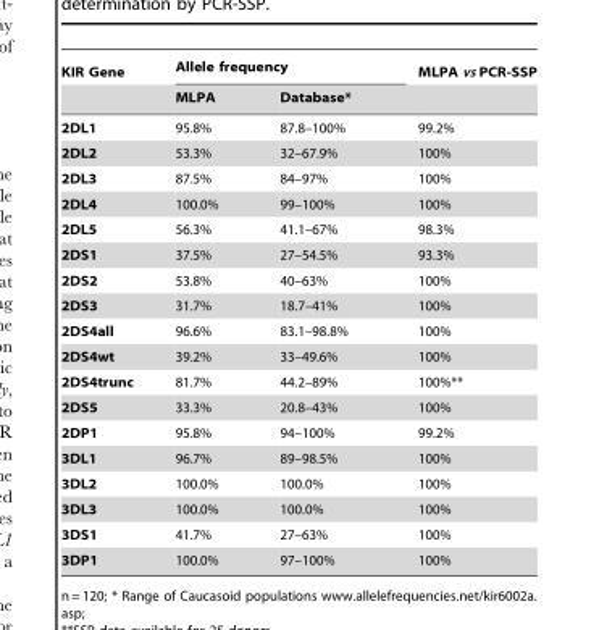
<table><thead><tr><td rowspan="2">KIR Gene</td><td colspan="2">Allele frequency</td><td rowspan="2">MLPA vs PCR-SSP</td></tr><tr><td>MLPA</td><td>Database*</td></tr></thead><tbody><tr><td>2DL1</td><td>95.8%</td><td>87.8–100%</td><td>99.2%</td></tr><tr><td>2DL2</td><td>53.3%</td><td>32–67.9%</td><td>100%</td></tr><tr><td>2DL3</td><td>87.5%</td><td>84–97%</td><td>100%</td></tr><tr><td>2DL4</td><td>100.0%</td><td>99–100%</td><td>100%</td></tr><tr><td>2DL5</td><td>56.3%</td><td>41.1–67%</td><td>98.3%</td></tr><tr><td>2DS1</td><td>37.5%</td><td>27–54.5%</td><td>93.3%</td></tr><tr><td>2DS2</td><td>53.8%</td><td>40–63%</td><td>100%</td></tr><tr><td>2DS3</td><td>31.7%</td><td>18.7–41%</td><td>100%</td></tr><tr><td>2DS4all</td><td>96.6%</td><td>83.1–98.8%</td><td>100%</td></tr><tr><td>2DS4wt</td><td>39.2%</td><td>33–49.6%</td><td>100%</td></tr><tr><td>2DS4trunc</td><td>81.7%</td><td>44.2–89%</td><td>100%**</td></tr><tr><td>2DS5</td><td>33.3%</td><td>20.8–43%</td><td>100%</td></tr><tr><td>2DP1</td><td>95.8%</td><td>94–100%</td><td>99.2%</td></tr><tr><td>3DL1</td><td>96.7%</td><td>89–98.5%</td><td>100%</td></tr><tr><td>3DL2</td><td>100.0%</td><td>100.0%</td><td>100%</td></tr><tr><td>3DL3</td><td>100.0%</td><td>100.0%</td><td>100%</td></tr><tr><td>3DS1</td><td>41.7%</td><td>27–63%</td><td>100%</td></tr><tr><td>3DP1</td><td>100.0%</td><td>97–100%</td><td>100%</td></tr></tbody></table>